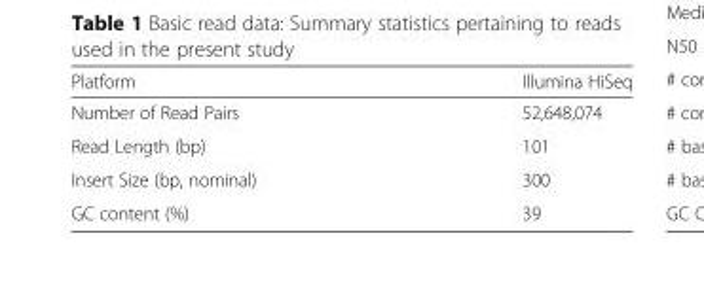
<table><thead><tr><td>Platform</td><td>Illumina HiSeq</td></tr></thead><tbody><tr><td>Number of Read Pairs</td><td>52,648,074</td></tr><tr><td>Read Length (bp)</td><td>101</td></tr><tr><td>Insert Size (bp, nominal)</td><td>300</td></tr><tr><td>GC content (%)</td><td>39</td></tr></tbody></table>